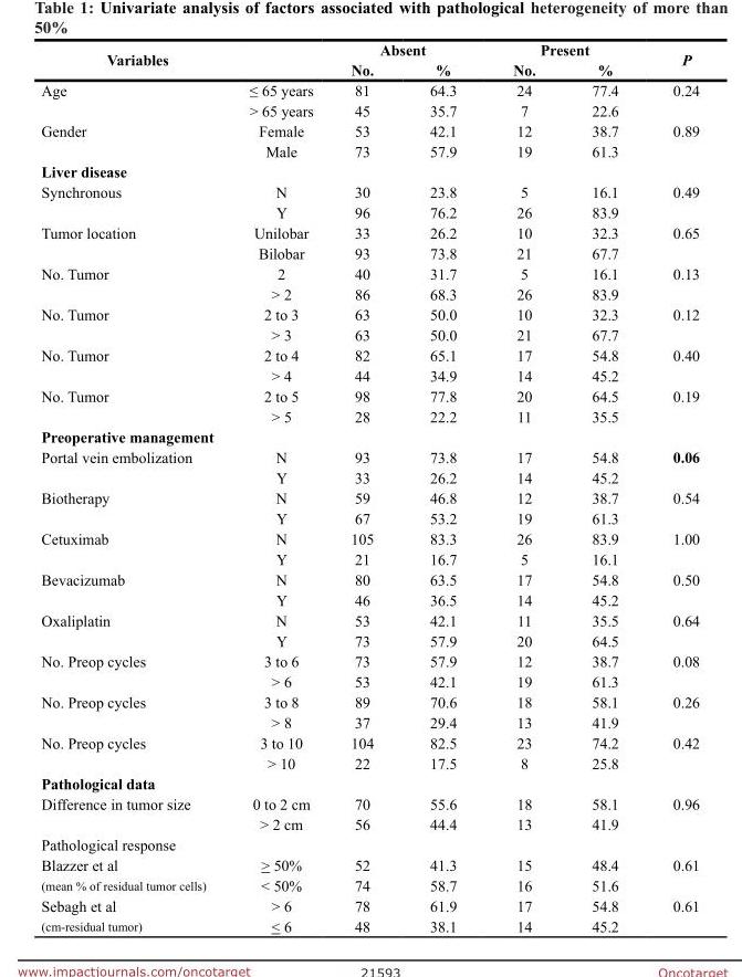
<table><thead><tr><td rowspan="2">Variables</td><td rowspan="2"></td><td colspan="2">Absent</td><td colspan="2">Present</td><td rowspan="2">P</td></tr><tr><td>No.</td><td>%</td><td>No.</td><td>%</td></tr></thead><tbody><tr><td rowspan="2">Age</td><td>≤ 65 years</td><td>81</td><td>64.3</td><td>24</td><td>77.4</td><td>0.24</td></tr><tr><td>&gt; 65 years</td><td>45</td><td>35.7</td><td>7</td><td>22.6</td><td></td></tr><tr><td rowspan="2">Gender</td><td>Female</td><td>53</td><td>42.1</td><td>12</td><td>38.7</td><td>0.89</td></tr><tr><td>Male</td><td>73</td><td>57.9</td><td>19</td><td>61.3</td><td></td></tr><tr><td colspan="7">Liver disease</td></tr><tr><td rowspan="2">Synchronous</td><td>N</td><td>30</td><td>23.8</td><td>5</td><td>16.1</td><td>0.49</td></tr><tr><td>Y</td><td>96</td><td>76.2</td><td>26</td><td>83.9</td><td></td></tr><tr><td rowspan="2">Tumor location</td><td>Unilobar</td><td>33</td><td>26.2</td><td>10</td><td>32.3</td><td>0.65</td></tr><tr><td>Bilobar</td><td>93</td><td>73.8</td><td>21</td><td>67.7</td><td></td></tr><tr><td rowspan="2">No. Tumor</td><td>2</td><td>40</td><td>31.7</td><td>5</td><td>16.1</td><td>0.13</td></tr><tr><td>&gt; 2</td><td>86</td><td>68.3</td><td>26</td><td>83.9</td><td></td></tr><tr><td rowspan="2">No. Tumor</td><td>2 to 3</td><td>63</td><td>50.0</td><td>10</td><td>32.3</td><td>0.12</td></tr><tr><td>&gt; 3</td><td>63</td><td>50.0</td><td>21</td><td>67.7</td><td></td></tr><tr><td rowspan="2">No. Tumor</td><td>2 to 4</td><td>82</td><td>65.1</td><td>17</td><td>54.8</td><td>0.40</td></tr><tr><td>&gt; 4</td><td>44</td><td>34.9</td><td>14</td><td>45.2</td><td></td></tr><tr><td rowspan="2">No. Tumor</td><td>2 to 5</td><td>98</td><td>77.8</td><td>20</td><td>64.5</td><td>0.19</td></tr><tr><td>&gt; 5</td><td>28</td><td>22.2</td><td>11</td><td>35.5</td><td></td></tr><tr><td colspan="7">Preoperative management</td></tr><tr><td rowspan="2">Portal vein embolization</td><td>N</td><td>93</td><td>73.8</td><td>17</td><td>54.8</td><td>0.06</td></tr><tr><td>Y</td><td>33</td><td>26.2</td><td>14</td><td>45.2</td><td></td></tr><tr><td rowspan="2">Biotherapy</td><td>N</td><td>59</td><td>46.8</td><td>12</td><td>38.7</td><td>0.54</td></tr><tr><td>Y</td><td>67</td><td>53.2</td><td>19</td><td>61.3</td><td></td></tr><tr><td rowspan="2">Cetuximab</td><td>N</td><td>105</td><td>83.3</td><td>26</td><td>83.9</td><td>1.00</td></tr><tr><td>Y</td><td>21</td><td>16.7</td><td>5</td><td>16.1</td><td></td></tr><tr><td rowspan="2">Bevacizumab</td><td>N</td><td>80</td><td>63.5</td><td>17</td><td>54.8</td><td>0.50</td></tr><tr><td>Y</td><td>46</td><td>36.5</td><td>14</td><td>45.2</td><td></td></tr><tr><td rowspan="2">Oxaliplatin</td><td>N</td><td>53</td><td>42.1</td><td>11</td><td>35.5</td><td>0.64</td></tr><tr><td>Y</td><td>73</td><td>57.9</td><td>20</td><td>64.5</td><td></td></tr><tr><td rowspan="2">No. Preop cycles</td><td>3 to 6</td><td>73</td><td>57.9</td><td>12</td><td>38.7</td><td>0.08</td></tr><tr><td>&gt; 6</td><td>53</td><td>42.1</td><td>19</td><td>61.3</td><td></td></tr><tr><td rowspan="2">No. Preop cycles</td><td>3 to 8</td><td>89</td><td>70.6</td><td>18</td><td>58.1</td><td>0.26</td></tr><tr><td>&gt; 8</td><td>37</td><td>29.4</td><td>13</td><td>41.9</td><td></td></tr><tr><td rowspan="2">No. Preop cycles</td><td>3 to 10</td><td>104</td><td>82.5</td><td>23</td><td>74.2</td><td>0.42</td></tr><tr><td>&gt; 10</td><td>22</td><td>17.5</td><td>8</td><td>25.8</td><td></td></tr><tr><td colspan="7">Pathological data</td></tr><tr><td rowspan="2">Difference in tumor size</td><td>0 to 2 cm</td><td>70</td><td>55.6</td><td>18</td><td>58.1</td><td>0.96</td></tr><tr><td>&gt; 2 cm</td><td>56</td><td>44.4</td><td>13</td><td>41.9</td><td></td></tr><tr><td colspan="7">Pathological response</td></tr><tr><td>Blazzer et al</td><td>&gt; 50%</td><td>52</td><td>41.3</td><td>15</td><td>48.4</td><td>0.61</td></tr><tr><td>(mean % of residual tumor cells)</td><td>&lt; 50%</td><td>74</td><td>58.7</td><td>16</td><td>51.6</td><td></td></tr><tr><td>Sebagh et al</td><td>&gt; 6</td><td>78</td><td>61.9</td><td>17</td><td>54.8</td><td>0.61</td></tr><tr><td>(cm-residual tumor)</td><td>&lt; 6</td><td>48</td><td>38.1</td><td>14</td><td>45.2</td><td></td></tr></tbody></table>